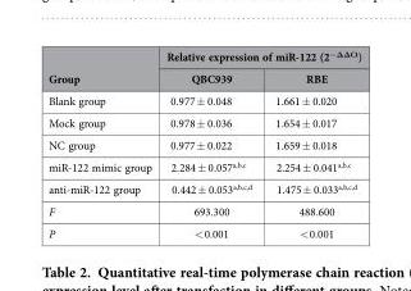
<table><thead><tr><td rowspan="2">Group</td><td colspan="2">Relative expression of miR-122 (2<sup>−ΔΔCt</sup>)</td></tr><tr><td>QBC939</td><td>RBE</td></tr></thead><tbody><tr><td>Blank group</td><td>0.977 ± 0.048</td><td>1.661 ± 0.020</td></tr><tr><td>Mock group</td><td>0.978 ± 0.036</td><td>1.654 ± 0.017</td></tr><tr><td>NC group</td><td>0.977 ± 0.022</td><td>1.659 ± 0.018</td></tr><tr><td>miR-122 mimic group</td><td>2.284 ± 0.057<sup>a,b,c</sup></td><td>2.254 ± 0.041<sup>a,b,c</sup></td></tr><tr><td>anti-miR-122 group</td><td>0.442 ± 0.053<sup>a,b,c,d</sup></td><td>1.475 ± 0.033<sup>a,b,c,d</sup></td></tr><tr><td>F</td><td>693.300</td><td>488.600</td></tr><tr><td>P</td><td>&lt; 0.001</td><td>&lt; 0.001</td></tr></tbody></table>